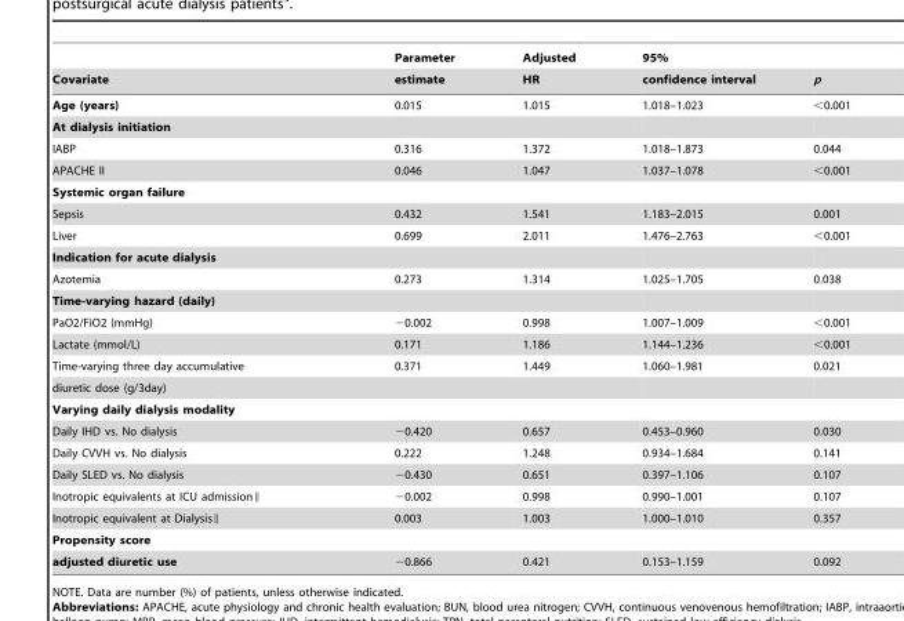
<table><thead><tr><td rowspan="2">Covariate</td><td rowspan="2">Parameter estimate</td><td rowspan="2">Adjusted HR</td><td rowspan="2">95% confidence interval</td><td rowspan="2">p</td></tr><tr></tr></thead><tbody><tr><td>Age (years)</td><td>0.015</td><td>1.015</td><td>1.018–1.023</td><td>&lt;0.001</td></tr><tr><td colspan="5">At dialysis initiation</td></tr><tr><td>IABP</td><td>0.316</td><td>1.372</td><td>1.018–1.873</td><td>0.044</td></tr><tr><td>APACHE II</td><td>0.046</td><td>1.047</td><td>1.037–1.078</td><td>&lt;0.001</td></tr><tr><td colspan="5">Systemic organ failure</td></tr><tr><td>Sepsis</td><td>0.432</td><td>1.541</td><td>1.183–2.015</td><td>0.001</td></tr><tr><td>Liver</td><td>0.699</td><td>2.011</td><td>1.476–2.763</td><td>&lt;0.001</td></tr><tr><td colspan="5">Indication for acute dialysis</td></tr><tr><td>Azotemia</td><td>0.273</td><td>1.314</td><td>1.025–1.705</td><td>0.038</td></tr><tr><td colspan="5">Time-varying hazard (daily)</td></tr><tr><td>PaO2/FiO2 (mmHg)</td><td>−0.002</td><td>0.998</td><td>1.007–1.009</td><td>&lt;0.001</td></tr><tr><td>Lactate (mmol/L)</td><td>0.171</td><td>1.186</td><td>1.144–1.236</td><td>&lt;0.001</td></tr><tr><td>Time-varying three day accumulative</td><td>0.371</td><td>1.449</td><td>1.060–1.981</td><td>0.021</td></tr><tr><td colspan="5">diuretic dose (g/3day)</td></tr><tr><td colspan="5">Varying daily dialysis modality</td></tr><tr><td>Daily IHD vs. No dialysis</td><td>−0.420</td><td>0.657</td><td>0.453–0.960</td><td>0.030</td></tr><tr><td>Daily CVVH vs. No dialysis</td><td>0.222</td><td>1.248</td><td>0.934–1.684</td><td>0.141</td></tr><tr><td>Daily SLED vs. No dialysis</td><td>−0.430</td><td>0.651</td><td>0.397–1.106</td><td>0.107</td></tr><tr><td>Inotropic equivalents at ICU admission∥</td><td>−0.002</td><td>0.998</td><td>0.990–1.001</td><td>0.107</td></tr><tr><td>Inotropic equivalent at Dialysis∥</td><td>0.003</td><td>1.003</td><td>1.000–1.010</td><td>0.357</td></tr><tr><td colspan="5">Propensity score</td></tr><tr><td>adjusted diuretic use</td><td>−0.866</td><td>0.421</td><td>0.153–1.159</td><td>0.092</td></tr></tbody></table>